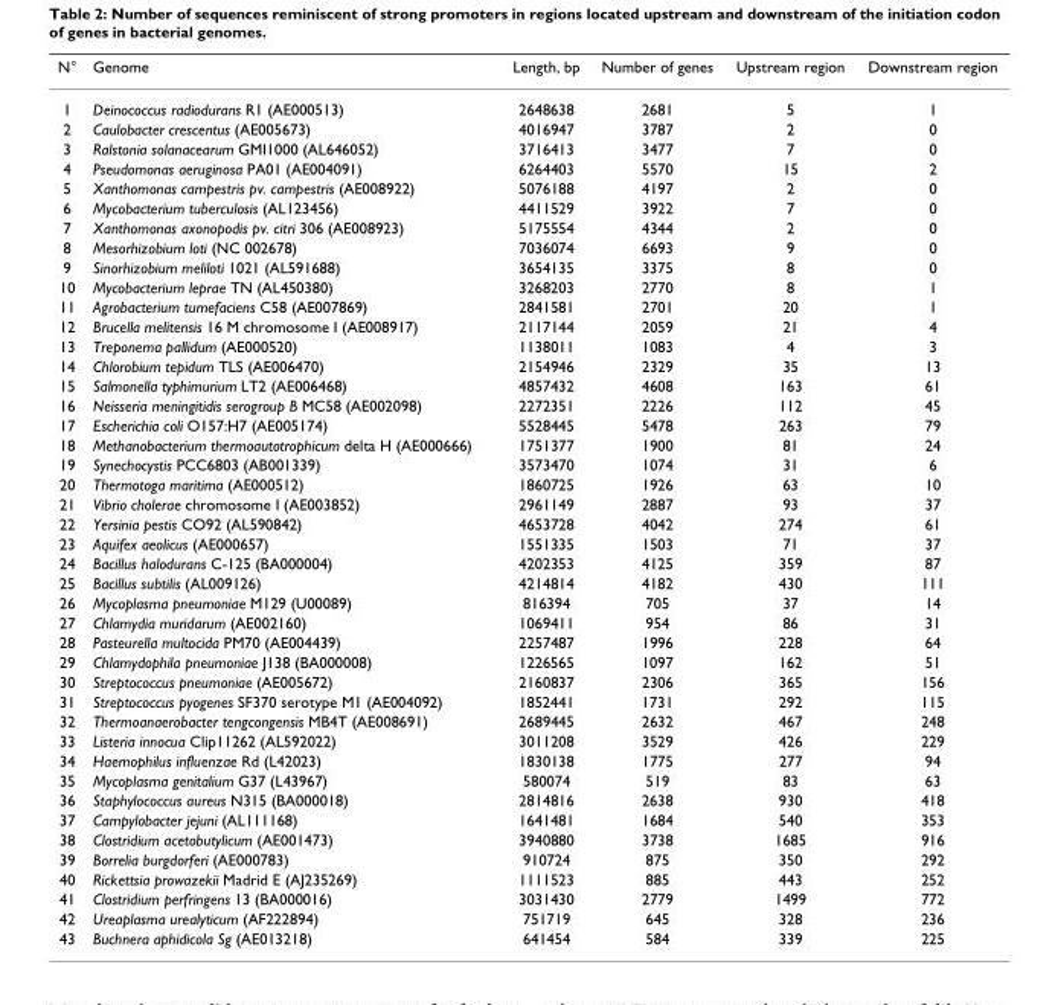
<table><thead><tr><td>N°</td><td>Genome</td><td>Length, bp</td><td>Number of genes</td><td>Upstream region</td><td>Downstream region</td></tr></thead><tbody><tr><td>1</td><td>Deinococcus radiodurans R1 (AE000513)</td><td>2648638</td><td>2681</td><td>5</td><td>1</td></tr><tr><td>2</td><td>Caulobacter crescentus (AE005673)</td><td>4016947</td><td>3787</td><td>2</td><td>0</td></tr><tr><td>3</td><td>Ralstonia solanacearum GMI1000 (AL646052)</td><td>3716413</td><td>3477</td><td>7</td><td>0</td></tr><tr><td>4</td><td>Pseudomonas aeruginosa PA01 (AE004091)</td><td>6264403</td><td>5570</td><td>15</td><td>2</td></tr><tr><td>5</td><td>Xanthomonas campestris pv. campestris (AE008922)</td><td>5076188</td><td>4197</td><td>2</td><td>0</td></tr><tr><td>6</td><td>Mycobacterium tuberculosis (AL123456)</td><td>4411529</td><td>3922</td><td>7</td><td>0</td></tr><tr><td>7</td><td>Xanthomonas axonopodis pv. citri 306 (AE008923)</td><td>5175554</td><td>4344</td><td>2</td><td>0</td></tr><tr><td>8</td><td>Mesorhizobium loti (NC 002678)</td><td>7036074</td><td>6693</td><td>9</td><td>0</td></tr><tr><td>9</td><td>Sinorhizobium meliloti 1021 (AL591688)</td><td>3654135</td><td>3375</td><td>8</td><td>0</td></tr><tr><td>10</td><td>Mycobacterium leprae TN (AL450380)</td><td>3268203</td><td>2770</td><td>8</td><td>1</td></tr><tr><td>11</td><td>Agrobacterium tumefaciens C58 (AE007869)</td><td>2841581</td><td>2701</td><td>20</td><td>1</td></tr><tr><td>12</td><td>Brucella melitensis 16 M chromosome I (AE008917)</td><td>2117144</td><td>2059</td><td>21</td><td>4</td></tr><tr><td>13</td><td>Treponema pallidum (AE000520)</td><td>1138011</td><td>1083</td><td>4</td><td>3</td></tr><tr><td>14</td><td>Chlorobium tepidum TLS (AE006470)</td><td>2154946</td><td>2329</td><td>35</td><td>13</td></tr><tr><td>15</td><td>Salmonella typhimurium LT2 (AE006468)</td><td>4857432</td><td>4608</td><td>163</td><td>61</td></tr><tr><td>16</td><td>Neisseria meningitidis serogroup B MC58 (AE002098)</td><td>2272351</td><td>2226</td><td>112</td><td>45</td></tr><tr><td>17</td><td>Escherichia coli O157:H7 (AE005174)</td><td>5528445</td><td>5478</td><td>263</td><td>79</td></tr><tr><td>18</td><td>Methanobacterium thermoautotrophicum delta H (AE000666)</td><td>1751377</td><td>1900</td><td>81</td><td>24</td></tr><tr><td>19</td><td>Synechocystis PCC6803 (AB001339)</td><td>3573470</td><td>1074</td><td>31</td><td>6</td></tr><tr><td>20</td><td>Thermotoga maritima (AE000512)</td><td>1860725</td><td>1926</td><td>63</td><td>10</td></tr><tr><td>21</td><td>Vibrio cholerae chromosome I (AE003852)</td><td>2961149</td><td>2887</td><td>93</td><td>37</td></tr><tr><td>22</td><td>Yersinia pestis CO92 (AL590842)</td><td>4653728</td><td>4042</td><td>274</td><td>61</td></tr><tr><td>23</td><td>Aquifex aeolicus (AE000657)</td><td>1551335</td><td>1503</td><td>71</td><td>37</td></tr><tr><td>24</td><td>Bacillus halodurans C-125 (BA000004)</td><td>4202353</td><td>4125</td><td>359</td><td>87</td></tr><tr><td>25</td><td>Bacillus subtilis (AL009126)</td><td>4214814</td><td>4182</td><td>430</td><td>111</td></tr><tr><td>26</td><td>Mycoplasma pneumoniae M129 (U00089)</td><td>816394</td><td>705</td><td>37</td><td>14</td></tr><tr><td>27</td><td>Chlamydia muridarum (AE002160)</td><td>1069411</td><td>954</td><td>86</td><td>31</td></tr><tr><td>28</td><td>Pasteurella multocida PM70 (AE004439)</td><td>2257487</td><td>1996</td><td>228</td><td>64</td></tr><tr><td>29</td><td>Chlamydophila pneumoniae J138 (BA000008)</td><td>1226565</td><td>1097</td><td>162</td><td>51</td></tr><tr><td>30</td><td>Streptococcus pneumoniae (AE005672)</td><td>2160837</td><td>2306</td><td>365</td><td>156</td></tr><tr><td>31</td><td>Streptococcus pyogenes SF370 serotype M1 (AE004092)</td><td>1852441</td><td>1731</td><td>292</td><td>115</td></tr><tr><td>32</td><td>Thermoanaerobacter tengcongensis MB4T (AE008691)</td><td>2689445</td><td>2632</td><td>467</td><td>248</td></tr><tr><td>33</td><td>Listeria innocua Clip11262 (AL592022)</td><td>3011208</td><td>3529</td><td>426</td><td>229</td></tr><tr><td>34</td><td>Haemophilus influenzae Rd (L42023)</td><td>1830138</td><td>1775</td><td>277</td><td>94</td></tr><tr><td>35</td><td>Mycoplasma genitalium G37 (L43967)</td><td>580074</td><td>519</td><td>83</td><td>63</td></tr><tr><td>36</td><td>Staphylococcus aureus N315 (BA000018)</td><td>2814816</td><td>2638</td><td>930</td><td>418</td></tr><tr><td>37</td><td>Campylobacter jejuni (AL111168)</td><td>1641481</td><td>1684</td><td>540</td><td>353</td></tr><tr><td>38</td><td>Clostridium acetobutylicum (AE001473)</td><td>3940880</td><td>3738</td><td>1685</td><td>916</td></tr><tr><td>39</td><td>Borrelia burgdorferi (AE000783)</td><td>910724</td><td>875</td><td>350</td><td>292</td></tr><tr><td>40</td><td>Rickettsia prowazekii Madrid E (AJ235269)</td><td>1111523</td><td>885</td><td>443</td><td>252</td></tr><tr><td>41</td><td>Clostridium perfringens 13 (BA000016)</td><td>3031430</td><td>2779</td><td>1499</td><td>772</td></tr><tr><td>42</td><td>Ureaplasma urealyticum (AF222894)</td><td>751719</td><td>645</td><td>328</td><td>236</td></tr><tr><td>43</td><td>Buchnera aphidicola Sg (AE013218)</td><td>641454</td><td>584</td><td>339</td><td>225</td></tr></tbody></table>